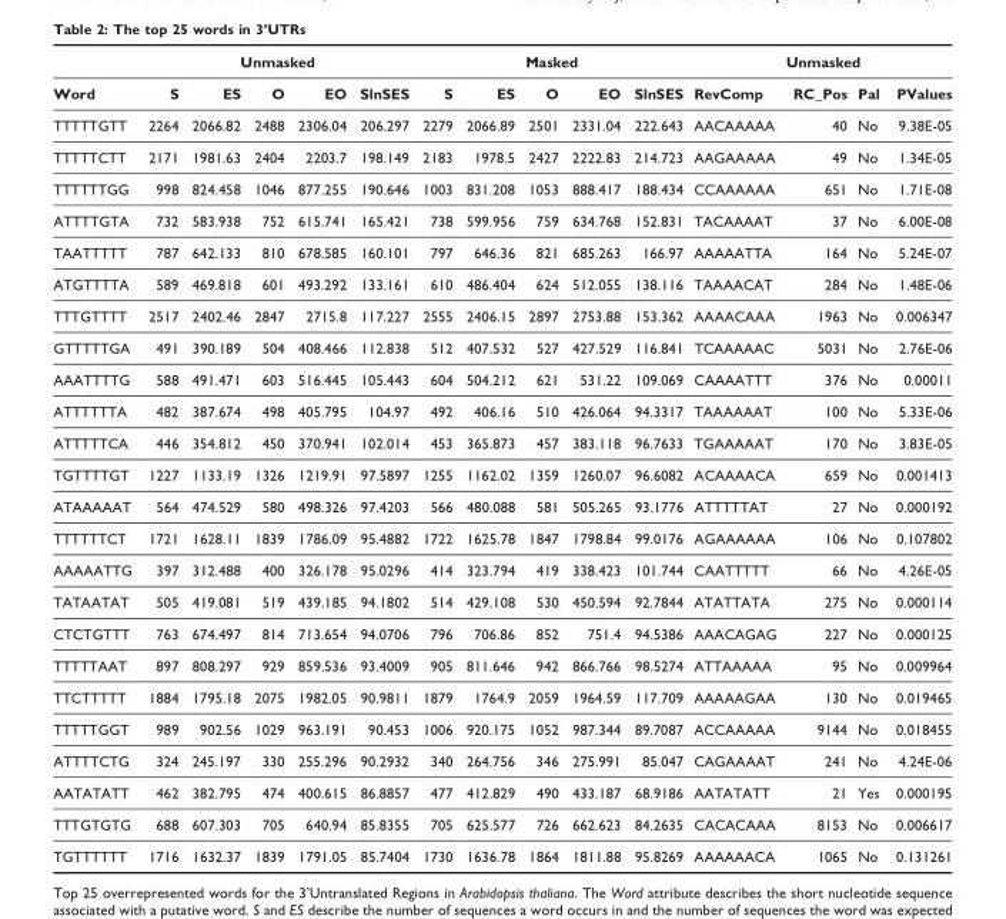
<table><thead><tr><td rowspan="2">Word</td><td colspan="5">Unmasked</td><td colspan="5">Masked</td><td colspan="4">Unmasked</td></tr><tr><td>S</td><td>ES</td><td>O</td><td>EO</td><td>SlnSES</td><td>S</td><td>ES</td><td>O</td><td>EO</td><td>SlnSES</td><td>RevComp</td><td>RC_Pos</td><td>Pal</td><td>PValues</td></tr></thead><tbody><tr><td>TTTTTGTT</td><td>2264</td><td>2066.82</td><td>2488</td><td>2306.04</td><td>206.297</td><td>2279</td><td>2066.89</td><td>2501</td><td>2331.04</td><td>222.643</td><td>AACAAAAA</td><td>40</td><td>No</td><td>9.38E-05</td></tr><tr><td>TTTTTCTT</td><td>2171</td><td>1981.63</td><td>2404</td><td>2203.7</td><td>198.149</td><td>2183</td><td>1978.5</td><td>2427</td><td>2222.83</td><td>214.723</td><td>AAGAAAAA</td><td>49</td><td>No</td><td>1.34E-05</td></tr><tr><td>TTTTTTGG</td><td>998</td><td>824.458</td><td>1046</td><td>877.255</td><td>190.646</td><td>1003</td><td>831.208</td><td>1053</td><td>888.417</td><td>188.434</td><td>CCAAAAAA</td><td>651</td><td>No</td><td>1.71E-08</td></tr><tr><td>ATTTTGTA</td><td>732</td><td>583.938</td><td>752</td><td>615.741</td><td>165.421</td><td>738</td><td>599.956</td><td>759</td><td>634.768</td><td>152.831</td><td>TACAAAAT</td><td>37</td><td>No</td><td>6.00E-08</td></tr><tr><td>TAATTTTT</td><td>787</td><td>642.133</td><td>810</td><td>678.585</td><td>160.101</td><td>797</td><td>646.36</td><td>821</td><td>685.263</td><td>166.97</td><td>AAAAATTA</td><td>164</td><td>No</td><td>5.24E-07</td></tr><tr><td>ATGTTTTA</td><td>589</td><td>469.818</td><td>601</td><td>493.292</td><td>133.161</td><td>610</td><td>486.404</td><td>624</td><td>512.055</td><td>138.116</td><td>TAAAACAT</td><td>284</td><td>No</td><td>1.48E-06</td></tr><tr><td>TTTGTTTT</td><td>2517</td><td>2402.46</td><td>2847</td><td>2715.8</td><td>117.227</td><td>2555</td><td>2406.15</td><td>2897</td><td>2753.88</td><td>153.362</td><td>AAAACAAA</td><td>1963</td><td>No</td><td>0.006347</td></tr><tr><td>GTTTTTGA</td><td>491</td><td>390.189</td><td>504</td><td>408.466</td><td>112.838</td><td>512</td><td>407.532</td><td>527</td><td>427.529</td><td>116.841</td><td>TCAAAAAC</td><td>5031</td><td>No</td><td>2.76E-06</td></tr><tr><td>AAATTTTG</td><td>588</td><td>491.471</td><td>603</td><td>516.445</td><td>105.443</td><td>604</td><td>504.212</td><td>621</td><td>531.22</td><td>109.069</td><td>CAAAATTT</td><td>376</td><td>No</td><td>0.00011</td></tr><tr><td>ATTTTTTA</td><td>482</td><td>387.674</td><td>498</td><td>405.795</td><td>104.97</td><td>492</td><td>406.16</td><td>510</td><td>426.064</td><td>94.3317</td><td>TAAAAAAT</td><td>100</td><td>No</td><td>5.33E-06</td></tr><tr><td>ATTTTTCA</td><td>446</td><td>354.812</td><td>450</td><td>370.941</td><td>102.014</td><td>453</td><td>365.873</td><td>457</td><td>383.118</td><td>96.7633</td><td>TGAAAAAT</td><td>170</td><td>No</td><td>3.83E-05</td></tr><tr><td>TGTTTTGT</td><td>1227</td><td>1133.19</td><td>1326</td><td>1219.91</td><td>97.5897</td><td>1255</td><td>1162.02</td><td>1359</td><td>1260.07</td><td>96.6082</td><td>ACAAAACA</td><td>659</td><td>No</td><td>0.001413</td></tr><tr><td>ATAAAAAT</td><td>564</td><td>474.529</td><td>580</td><td>498.326</td><td>97.4203</td><td>566</td><td>480.088</td><td>581</td><td>505.265</td><td>93.1776</td><td>ATTTTTAT</td><td>27</td><td>No</td><td>0.000192</td></tr><tr><td>TTTTTTCT</td><td>1721</td><td>1628.11</td><td>1839</td><td>1786.09</td><td>95.4882</td><td>1722</td><td>1625.78</td><td>1847</td><td>1798.84</td><td>99.0176</td><td>AGAAAAAA</td><td>106</td><td>No</td><td>0.107802</td></tr><tr><td>AAAAATTG</td><td>397</td><td>312.488</td><td>400</td><td>326.178</td><td>95.0296</td><td>414</td><td>323.794</td><td>419</td><td>338.423</td><td>101.744</td><td>CAATTTTT</td><td>66</td><td>No</td><td>4.26E-05</td></tr><tr><td>TATAATAT</td><td>505</td><td>419.081</td><td>519</td><td>439.185</td><td>94.1802</td><td>514</td><td>429.108</td><td>530</td><td>450.594</td><td>92.7844</td><td>ATATTATA</td><td>275</td><td>No</td><td>0.000114</td></tr><tr><td>CTCTGTTT</td><td>763</td><td>674.497</td><td>814</td><td>713.654</td><td>94.0706</td><td>796</td><td>706.86</td><td>852</td><td>751.4</td><td>94.5386</td><td>AAACAGAG</td><td>227</td><td>No</td><td>0.000125</td></tr><tr><td>TTTTTAAT</td><td>897</td><td>808.297</td><td>929</td><td>859.536</td><td>93.4009</td><td>905</td><td>811.646</td><td>942</td><td>866.766</td><td>98.5274</td><td>ATTAAAAA</td><td>95</td><td>No</td><td>0.009964</td></tr><tr><td>TTCTTTTT</td><td>1884</td><td>1795.18</td><td>2075</td><td>1982.05</td><td>90.9811</td><td>1879</td><td>1764.9</td><td>2059</td><td>1964.59</td><td>117.709</td><td>AAAAAGAA</td><td>130</td><td>No</td><td>0.019465</td></tr><tr><td>TTTTTGGT</td><td>989</td><td>902.56</td><td>1029</td><td>963.191</td><td>90.453</td><td>1006</td><td>920.175</td><td>1052</td><td>987.344</td><td>89.7087</td><td>ACCAAAAA</td><td>9144</td><td>No</td><td>0.018455</td></tr><tr><td>ATTTTCTG</td><td>324</td><td>245.197</td><td>330</td><td>255.296</td><td>90.2932</td><td>340</td><td>264.756</td><td>346</td><td>275.991</td><td>85.047</td><td>CAGAAAAT</td><td>241</td><td>No</td><td>4.24E-06</td></tr><tr><td>AATATATT</td><td>462</td><td>382.795</td><td>474</td><td>400.615</td><td>86.8857</td><td>477</td><td>412.829</td><td>490</td><td>433.187</td><td>68.9186</td><td>AATATATT</td><td>21</td><td>Yes</td><td>0.000195</td></tr><tr><td>TTTGTGTG</td><td>688</td><td>607.303</td><td>705</td><td>640.94</td><td>85.8355</td><td>705</td><td>625.577</td><td>726</td><td>662.623</td><td>84.2635</td><td>CACACAAA</td><td>8153</td><td>No</td><td>0.006617</td></tr><tr><td>TGTTTTTT</td><td>1716</td><td>1632.37</td><td>1839</td><td>1791.05</td><td>85.7404</td><td>1730</td><td>1636.78</td><td>1864</td><td>1811.88</td><td>95.8269</td><td>AAAAAACA</td><td>1065</td><td>No</td><td>0.131261</td></tr></tbody></table>